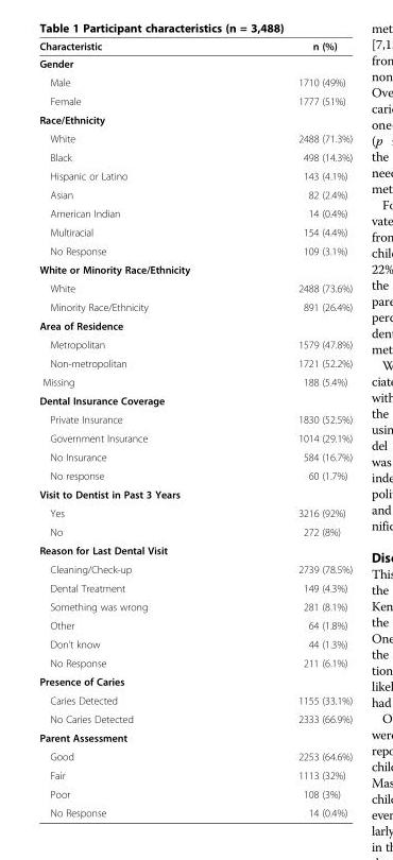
<table><thead><tr><td>Characteristic</td><td>n (%)</td></tr></thead><tbody><tr><td colspan="2">Gender</td></tr><tr><td>Male</td><td>1710 (49%)</td></tr><tr><td>Female</td><td>1777 (51%)</td></tr><tr><td colspan="2">Race/Ethnicity</td></tr><tr><td>White</td><td>2488 (71.3%)</td></tr><tr><td>Black</td><td>498 (14.3%)</td></tr><tr><td>Hispanic or Latino</td><td>143 (4.1%)</td></tr><tr><td>Asian</td><td>82 (2.4%)</td></tr><tr><td>American Indian</td><td>14 (0.4%)</td></tr><tr><td>Multiracial</td><td>154 (4.4%)</td></tr><tr><td>No Response</td><td>109 (3.1%)</td></tr><tr><td colspan="2">White or Minority Race/Ethnicity</td></tr><tr><td>White</td><td>2488 (73.6%)</td></tr><tr><td>Minority Race/Ethnicity</td><td>891 (26.4%)</td></tr><tr><td colspan="2">Area of Residence</td></tr><tr><td>Metropolitan</td><td>1579 (47.8%)</td></tr><tr><td>Non-metropolitan</td><td>1721 (52.2%)</td></tr><tr><td>Missing</td><td>188 (5.4%)</td></tr><tr><td colspan="2">Dental Insurance Coverage</td></tr><tr><td>Private Insurance</td><td>1830 (52.5%)</td></tr><tr><td>Government Insurance</td><td>1014 (29.1%)</td></tr><tr><td>No Insurance</td><td>584 (16.7%)</td></tr><tr><td>No response</td><td>60 (1.7%)</td></tr><tr><td colspan="2">Visit to Dentist in Past 3 Years</td></tr><tr><td>Yes</td><td>3216 (92%)</td></tr><tr><td>No</td><td>272 (8%)</td></tr><tr><td colspan="2">Reason for Last Dental Visit</td></tr><tr><td>Cleaning/Check-up</td><td>2739 (78.5%)</td></tr><tr><td>Dental Treatment</td><td>149 (4.3%)</td></tr><tr><td>Something was wrong</td><td>281 (8.1%)</td></tr><tr><td>Other</td><td>64 (1.8%)</td></tr><tr><td>Don’t know</td><td>44 (1.3%)</td></tr><tr><td>No Response</td><td>211 (6.1%)</td></tr><tr><td colspan="2">Presence of Caries</td></tr><tr><td>Caries Detected</td><td>1155 (33.1%)</td></tr><tr><td>No Caries Detected</td><td>2333 (66.9%)</td></tr><tr><td colspan="2">Parent Assessment</td></tr><tr><td>Good</td><td>2253 (64.6%)</td></tr><tr><td>Fair</td><td>1113 (32%)</td></tr><tr><td>Poor</td><td>108 (3%)</td></tr><tr><td>No Response</td><td>14 (0.4%)</td></tr></tbody></table>